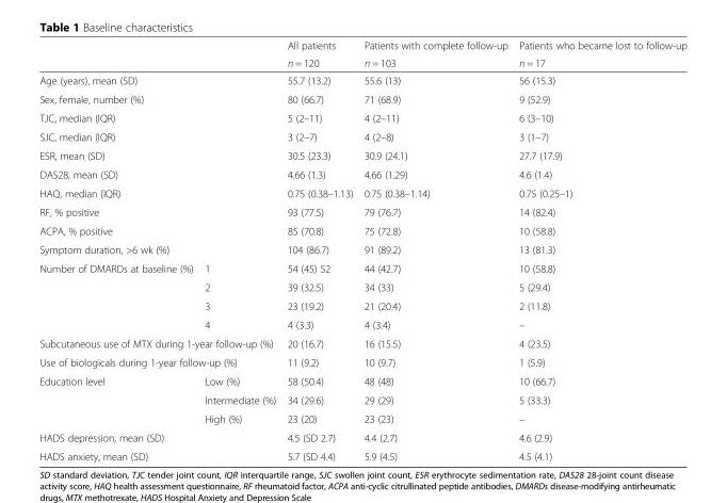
<table><thead><tr><td rowspan="2"></td><td rowspan="2"></td><td rowspan="2">All patients n = 120</td><td rowspan="2">Patients with complete follow-up n = 103</td><td rowspan="2">Patients who became lost to follow-up n = 17</td></tr><tr></tr></thead><tbody><tr><td colspan="2">Age (years), mean (SD)</td><td>55.7 (13.2)</td><td>55.6 (13)</td><td>56 (15.3)</td></tr><tr><td colspan="2">Sex, female, number (%)</td><td>80 (66.7)</td><td>71 (68.9)</td><td>9 (52.9)</td></tr><tr><td colspan="2">TJC, median (IQR)</td><td>5 (2–11)</td><td>4 (2–11)</td><td>6 (3–10)</td></tr><tr><td colspan="2">SJC, median (IQR)</td><td>3 (2–7)</td><td>4 (2–8)</td><td>3 (1–7)</td></tr><tr><td colspan="2">ESR, mean (SD)</td><td>30.5 (23.3)</td><td>30.9 (24.1)</td><td>27.7 (17.9)</td></tr><tr><td colspan="2">DAS28, mean (SD)</td><td>4.66 (1.3)</td><td>4.66 (1.29)</td><td>4.6 (1.4)</td></tr><tr><td colspan="2">HAQ, median (IQR)</td><td>0.75 (0.38–1.13)</td><td>0.75 (0.38–1.14)</td><td>0.75 (0.25–1)</td></tr><tr><td colspan="2">RF, % positive</td><td>93 (77.5)</td><td>79 (76.7)</td><td>14 (82.4)</td></tr><tr><td colspan="2">ACPA, % positive</td><td>85 (70.8)</td><td>75 (72.8)</td><td>10 (58.8)</td></tr><tr><td colspan="2">Symptom duration, &gt;6 wk (%)</td><td>104 (86.7)</td><td>91 (89.2)</td><td>13 (81.3)</td></tr><tr><td rowspan="4">Number of DMARDs at baseline (%)</td><td>1</td><td>54 (45) 52</td><td>44 (42.7)</td><td>10 (58.8)</td></tr><tr><td>2</td><td>39 (32.5)</td><td>34 (33)</td><td>5 (29.4)</td></tr><tr><td>3</td><td>23 (19.2)</td><td>21 (20.4)</td><td>2 (11.8)</td></tr><tr><td>4</td><td>4 (3.3)</td><td>4 (3.4)</td><td>–</td></tr><tr><td colspan="2">Subcutaneous use of MTX during 1-year follow-up (%)</td><td>20 (16.7)</td><td>16 (15.5)</td><td>4 (23.5)</td></tr><tr><td colspan="2">Use of biologicals during 1-year follow-up (%)</td><td>11 (9.2)</td><td>10 (9.7)</td><td>1 (5.9)</td></tr><tr><td rowspan="3">Education level</td><td>Low (%)</td><td>58 (50.4)</td><td>48 (48)</td><td>10 (66.7)</td></tr><tr><td>Intermediate (%)</td><td>34 (29.6)</td><td>29 (29)</td><td>5 (33.3)</td></tr><tr><td>High (%)</td><td>23 (20)</td><td>23 (23)</td><td>–</td></tr><tr><td colspan="2">HADS depression, mean (SD)</td><td>4.5 (SD 2.7)</td><td>4.4 (2.7)</td><td>4.6 (2.9)</td></tr><tr><td colspan="2">HADS anxiety, mean (SD)</td><td>5.7 (SD 4.4)</td><td>5.9 (4.5)</td><td>4.5 (4.1)</td></tr></tbody></table>